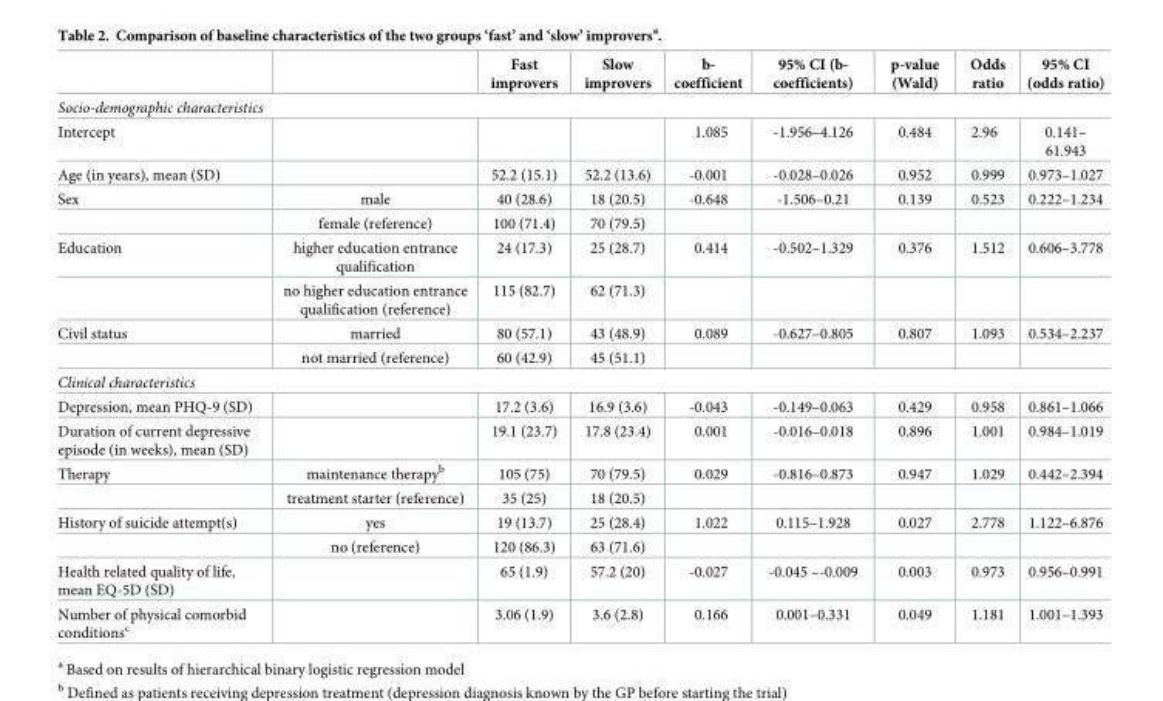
<table><thead><tr><td></td><td></td><td>Fast improvers</td><td>Slow improvers</td><td>b- coefficient</td><td>95% CI (b- coefficients)</td><td>p-value (Wald)</td><td>Odds ratio</td><td>95% CI (odds ratio)</td></tr></thead><tbody><tr><td colspan="9">Socio-demographic characteristics</td></tr><tr><td>Intercept</td><td></td><td></td><td></td><td>1.085</td><td>-1.956–4.126</td><td>0.484</td><td>2.96</td><td>0.141– 61.943</td></tr><tr><td>Age (in years), mean (SD)</td><td></td><td>52.2 (15.1)</td><td>52.2 (13.6)</td><td>-0.001</td><td>-0.028–0.026</td><td>0.952</td><td>0.999</td><td>0.973–1.027</td></tr><tr><td rowspan="2">Sex</td><td>male</td><td>40 (28.6)</td><td>18 (20.5)</td><td>-0.648</td><td>-1.506–0.21</td><td>0.139</td><td>0.523</td><td>0.222–1.234</td></tr><tr><td>female (reference)</td><td>100 (71.4)</td><td>70 (79.5)</td><td></td><td></td><td></td><td></td><td></td></tr><tr><td rowspan="2">Education</td><td>higher education entrance qualification</td><td>24 (17.3)</td><td>25 (28.7)</td><td>0.414</td><td>-0.502–1.329</td><td>0.376</td><td>1.512</td><td>0.606–3.778</td></tr><tr><td>no higher education entrance qualification (reference)</td><td>115 (82.7)</td><td>62 (71.3)</td><td></td><td></td><td></td><td></td><td></td></tr><tr><td rowspan="2">Civil status</td><td>married</td><td>80 (57.1)</td><td>43 (48.9)</td><td>0.089</td><td>-0.627–0.805</td><td>0.807</td><td>1.093</td><td>0.534–2.237</td></tr><tr><td>not married (reference)</td><td>60 (42.9)</td><td>45 (51.1)</td><td></td><td></td><td></td><td></td><td></td></tr><tr><td colspan="9">Clinical characteristics</td></tr><tr><td>Depression, mean PHQ-9 (SD)</td><td></td><td>17.2 (3.6)</td><td>16.9 (3.6)</td><td>-0.043</td><td>-0.149–0.063</td><td>0.429</td><td>0.958</td><td>0.861–1.066</td></tr><tr><td>Duration of current depressive episode (in weeks), mean (SD)</td><td></td><td>19.1 (23.7)</td><td>17.8 (23.4)</td><td>0.001</td><td>-0.016–0.018</td><td>0.896</td><td>1.001</td><td>0.984–1.019</td></tr><tr><td rowspan="2">Therapy</td><td>maintenance therapy<sup>b</sup></td><td>105 (75)</td><td>70 (79.5)</td><td>0.029</td><td>-0.816–0.873</td><td>0.947</td><td>1.029</td><td>0.442–2.394</td></tr><tr><td>treatment starter (reference)</td><td>35 (25)</td><td>18 (20.5)</td><td></td><td></td><td></td><td></td><td></td></tr><tr><td rowspan="2">History of suicide attempt(s)</td><td>yes</td><td>19 (13.7)</td><td>25 (28.4)</td><td>1.022</td><td>0.115–1.928</td><td>0.027</td><td>2.778</td><td>1.122–6.876</td></tr><tr><td>no (reference)</td><td>120 (86.3)</td><td>63 (71.6)</td><td></td><td></td><td></td><td></td><td></td></tr><tr><td>Health related quality of life, mean EQ-5D (SD)</td><td></td><td>65 (1.9)</td><td>57.2 (20)</td><td>-0.027</td><td>-0.045 –-0.009</td><td>0.003</td><td>0.973</td><td>0.956–0.991</td></tr><tr><td>Number of physical comorbid conditions<sup>c</sup></td><td></td><td>3.06 (1.9)</td><td>3.6 (2.8)</td><td>0.166</td><td>0.001–0.331</td><td>0.049</td><td>1.181</td><td>1.001–1.393</td></tr></tbody></table>